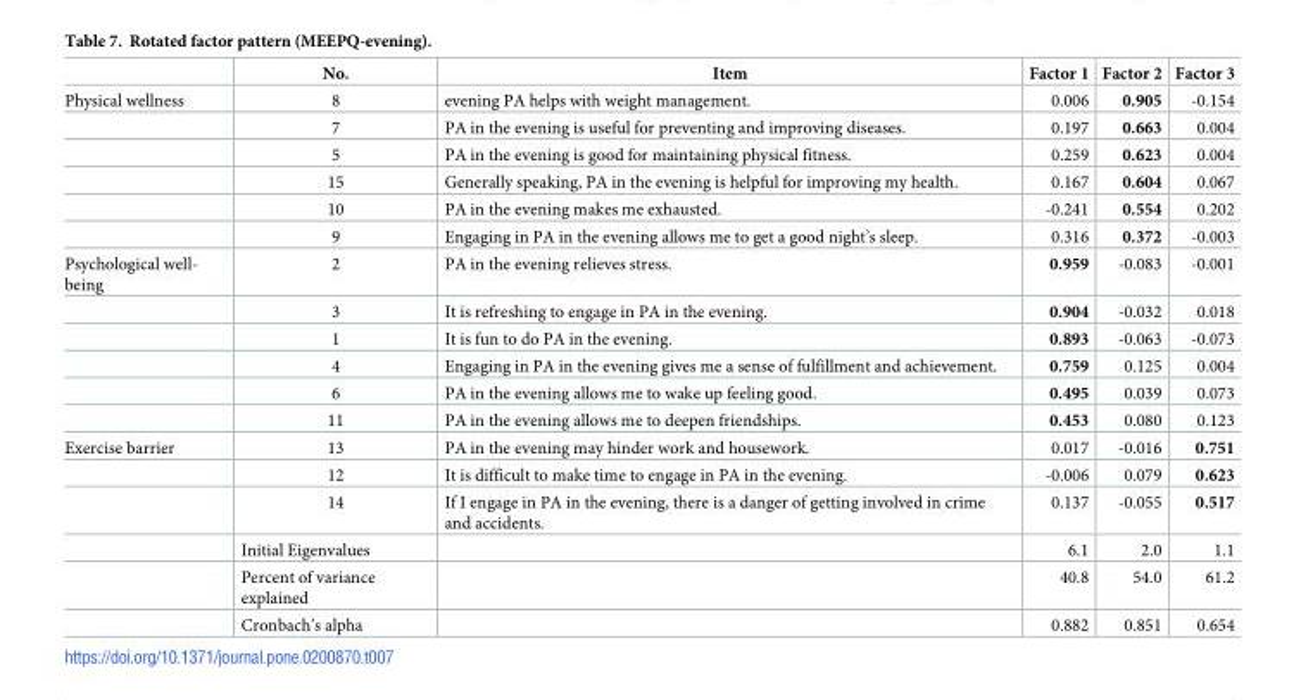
<table><thead><tr><td></td><td>No.</td><td>Item</td><td>Factor 1</td><td>Factor 2</td><td>Factor 3</td></tr></thead><tbody><tr><td rowspan="6">Physical wellness</td><td>8</td><td>evening PA helps with weight management.</td><td>0.006</td><td>0.905</td><td>-0.154</td></tr><tr><td>7</td><td>PA in the evening is useful for preventing and improving diseases.</td><td>0.197</td><td>0.663</td><td>0.004</td></tr><tr><td>5</td><td>PA in the evening is good for maintaining physical fitness.</td><td>0.259</td><td>0.623</td><td>0.004</td></tr><tr><td>15</td><td>Generally speaking, PA in the evening is helpful for improving my health.</td><td>0.167</td><td>0.604</td><td>0.067</td></tr><tr><td>10</td><td>PA in the evening makes me exhausted.</td><td>-0.241</td><td>0.554</td><td>0.202</td></tr><tr><td>9</td><td>Engaging in PA in the evening allows me to get a good night’s sleep.</td><td>0.316</td><td>0.372</td><td>-0.003</td></tr><tr><td rowspan="6">Psychological well- being</td><td>2</td><td>PA in the evening relieves stress.</td><td>0.959</td><td>-0.083</td><td>-0.001</td></tr><tr><td>3</td><td>It is refreshing to engage in PA in the evening.</td><td>0.904</td><td>-0.032</td><td>0.018</td></tr><tr><td>1</td><td>It is fun to do PA in the evening.</td><td>0.893</td><td>-0.063</td><td>-0.073</td></tr><tr><td>4</td><td>Engaging in PA in the evening gives me a sense of fulfillment and achievement.</td><td>0.759</td><td>0.125</td><td>0.004</td></tr><tr><td>6</td><td>PA in the evening allows me to wake up feeling good.</td><td>0.495</td><td>0.039</td><td>0.073</td></tr><tr><td>11</td><td>PA in the evening allows me to deepen friendships.</td><td>0.453</td><td>0.080</td><td>0.123</td></tr><tr><td rowspan="6">Exercise barrier</td><td>13</td><td>PA in the evening may hinder work and housework.</td><td>0.017</td><td>-0.016</td><td>0.751</td></tr><tr><td>12</td><td>It is difficult to make time to engage in PA in the evening.</td><td>-0.006</td><td>0.079</td><td>0.623</td></tr><tr><td>14</td><td>If I engage in PA in the evening, there is a danger of getting involved in crime and accidents.</td><td>0.137</td><td>-0.055</td><td>0.517</td></tr><tr><td>Initial Eigenvalues</td><td></td><td>6.1</td><td>2.0</td><td>1.1</td></tr><tr><td>Percent of variance explained</td><td></td><td>40.8</td><td>54.0</td><td>61.2</td></tr><tr><td>Cronbach’s alpha</td><td></td><td>0.882</td><td>0.851</td><td>0.654</td></tr></tbody></table>